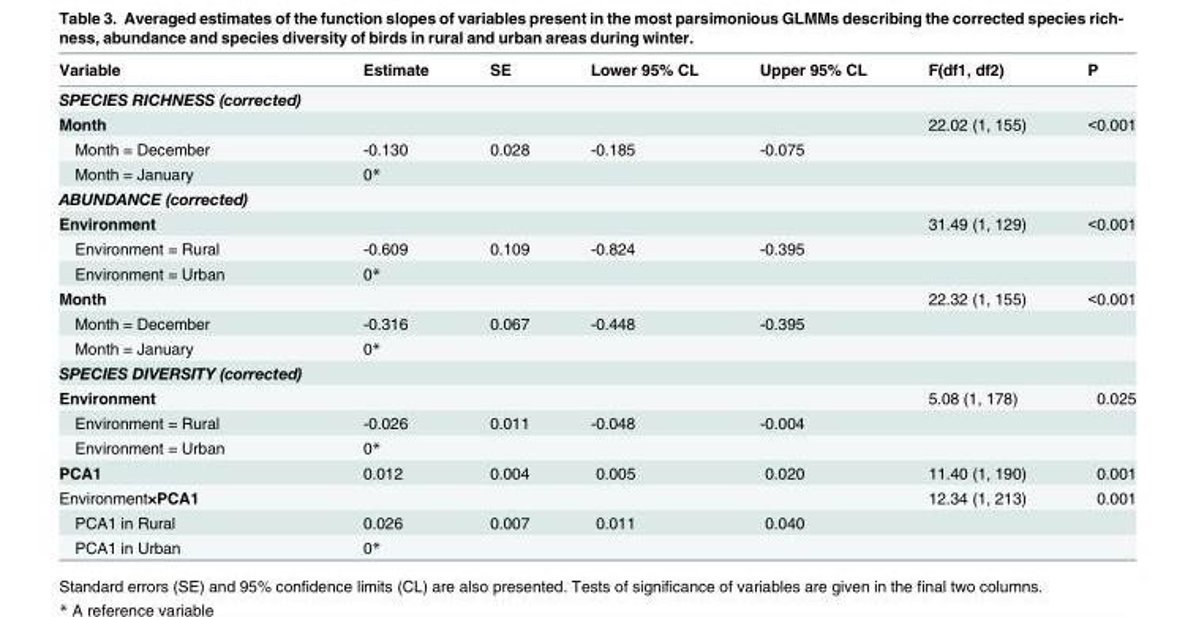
<table><thead><tr><td>Variable</td><td>Estimate</td><td>SE</td><td>Lower 95% CL</td><td>Upper 95% CL</td><td>F(df1, df2)</td><td>P</td></tr></thead><tbody><tr><td colspan="7">SPECIES RICHNESS (corrected)</td></tr><tr><td>Month</td><td></td><td></td><td></td><td></td><td>22.02 (1, 155)</td><td>&lt;0.001</td></tr><tr><td>Month = December</td><td>-0.130</td><td>0.028</td><td>-0.185</td><td>-0.075</td><td></td><td></td></tr><tr><td>Month = January</td><td>0*</td><td></td><td></td><td></td><td></td><td></td></tr><tr><td colspan="7">ABUNDANCE (corrected)</td></tr><tr><td>Environment</td><td></td><td></td><td></td><td></td><td>31.49 (1, 129)</td><td>&lt;0.001</td></tr><tr><td>Environment = Rural</td><td>-0.609</td><td>0.109</td><td>-0.824</td><td>-0.395</td><td></td><td></td></tr><tr><td>Environment = Urban</td><td>0*</td><td></td><td></td><td></td><td></td><td></td></tr><tr><td>Month</td><td></td><td></td><td></td><td></td><td>22.32 (1, 155)</td><td>&lt;0.001</td></tr><tr><td>Month = December</td><td>-0.316</td><td>0.067</td><td>-0.448</td><td>-0.395</td><td></td><td></td></tr><tr><td>Month = January</td><td>0*</td><td></td><td></td><td></td><td></td><td></td></tr><tr><td colspan="7">SPECIES DIVERSITY (corrected)</td></tr><tr><td>Environment</td><td></td><td></td><td></td><td></td><td>5.08 (1, 178)</td><td>0.025</td></tr><tr><td>Environment = Rural</td><td>-0.026</td><td>0.011</td><td>-0.048</td><td>-0.004</td><td></td><td></td></tr><tr><td>Environment = Urban</td><td>0*</td><td></td><td></td><td></td><td></td><td></td></tr><tr><td>PCA1</td><td>0.012</td><td>0.004</td><td>0.005</td><td>0.020</td><td>11.40 (1, 190)</td><td>0.001</td></tr><tr><td>Environment×PCA1</td><td></td><td></td><td></td><td></td><td>12.34 (1, 213)</td><td>0.001</td></tr><tr><td>PCA1 in Rural</td><td>0.026</td><td>0.007</td><td>0.011</td><td>0.040</td><td></td><td></td></tr><tr><td>PCA1 in Urban</td><td>0*</td><td></td><td></td><td></td><td></td><td></td></tr></tbody></table>